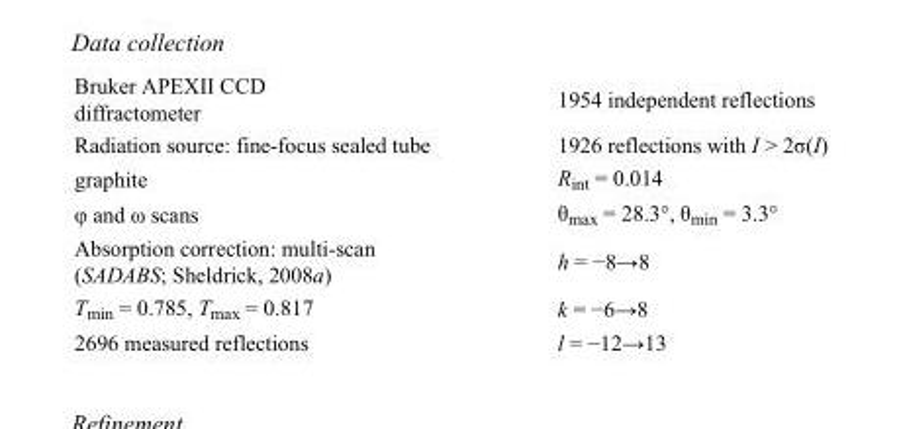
<table><tbody><tr><td>Bruker APEXII CCD diffractometer</td><td>1954 independent reflections</td></tr><tr><td>Radiation source: fine-focus sealed tube</td><td>1926 reflections with I &gt; 2σ(I)</td></tr><tr><td>graphite</td><td>R<sub>int</sub> = 0.014</td></tr><tr><td>φ and ω scans</td><td>θ<sub>max</sub> = 28.3°, θ<sub>min</sub> = 3.3°</td></tr><tr><td>Absorption correction: multi-scan (SADABS; Sheldrick, 2008a)</td><td>h = −8→8</td></tr><tr><td>T<sub>min</sub> = 0.785, T<sub>max</sub> = 0.817</td><td>k = −6→8</td></tr><tr><td>2696 measured reflections</td><td>l = −12→13</td></tr></tbody></table>